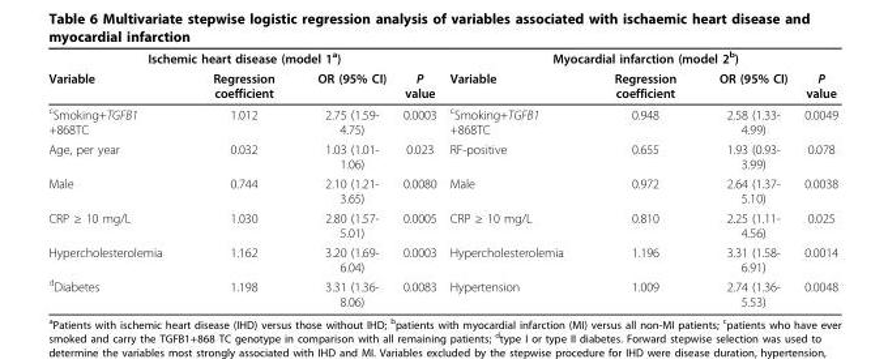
<table><thead><tr><td colspan="4">Ischemic heart disease (model 1<sup>a</sup>)</td><td colspan="4">Myocardial infarction (model 2<sup>b</sup>)</td></tr><tr><td>Variable</td><td>Regression coefficient</td><td>OR (95% CI)</td><td>P value</td><td>Variable</td><td>Regression coefficient</td><td>OR (95% CI)</td><td>P value</td></tr></thead><tbody><tr><td><sup>c</sup>Smoking+TGFB1 +868TC</td><td>1.012</td><td>2.75 (1.59- 4.75)</td><td>0.0003</td><td><sup>c</sup>Smoking+TGFB1 +868TC</td><td>0.948</td><td>2.58 (1.33- 4.99)</td><td>0.0049</td></tr><tr><td>Age, per year</td><td>0.032</td><td>1.03 (1.01- 1.06)</td><td>0.023</td><td>RF-positive</td><td>0.655</td><td>1.93 (0.93- 3.99)</td><td>0.078</td></tr><tr><td>Male</td><td>0.744</td><td>2.10 (1.21- 3.65)</td><td>0.0080</td><td>Male</td><td>0.972</td><td>2.64 (1.37- 5.10)</td><td>0.0038</td></tr><tr><td>CRP ≥ 10 mg/L</td><td>1.030</td><td>2.80 (1.57- 5.01)</td><td>0.0005</td><td>CRP ≥ 10 mg/L</td><td>0.810</td><td>2.25 (1.11- 4.56)</td><td>0.025</td></tr><tr><td>Hypercholesterolemia</td><td>1.162</td><td>3.20 (1.69- 6.04)</td><td>0.0003</td><td>Hypercholesterolemia</td><td>1.196</td><td>3.31 (1.58- 6.91)</td><td>0.0014</td></tr><tr><td><sup>d</sup>Diabetes</td><td>1.198</td><td>3.31 (1.36- 8.06)</td><td>0.0083</td><td>Hypertension</td><td>1.009</td><td>2.74 (1.36- 5.53)</td><td>0.0048</td></tr></tbody></table>